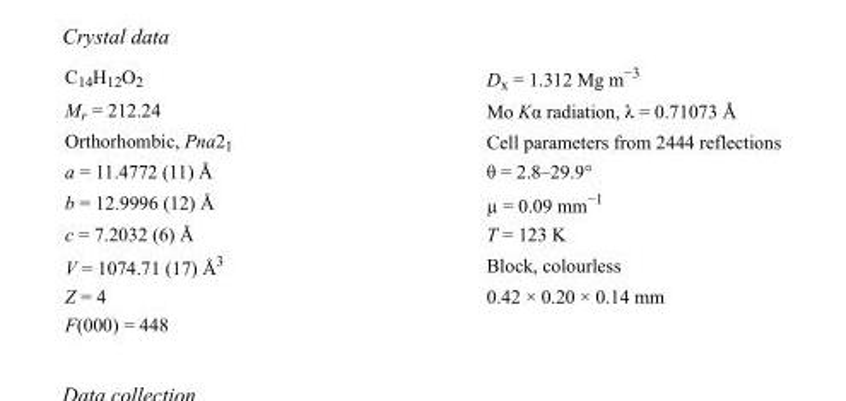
<table><tbody><tr><td>C<sub>14</sub>H<sub>12</sub>O<sub>2</sub></td><td>D<sub>x</sub> = 1.312 Mg m<sup>−3</sup></td></tr><tr><td>M<sub>r</sub> = 212.24</td><td>Mo Kα radiation, λ = 0.71073 Å</td></tr><tr><td>Orthorhombic, Pna2<sub>1</sub></td><td>Cell parameters from 2444 reflections</td></tr><tr><td>a = 11.4772 (11) Å</td><td>θ = 2.8–29.9°</td></tr><tr><td>b = 12.9996 (12) Å</td><td>µ = 0.09 mm<sup>−1</sup></td></tr><tr><td>c = 7.2032 (6) Å</td><td>T = 123 K</td></tr><tr><td>V = 1074.71 (17) Å<sup>3</sup></td><td>Block, colourless</td></tr><tr><td>Z = 4</td><td>0.42 × 0.20 × 0.14 mm</td></tr><tr><td>F(000) = 448</td><td></td></tr></tbody></table>